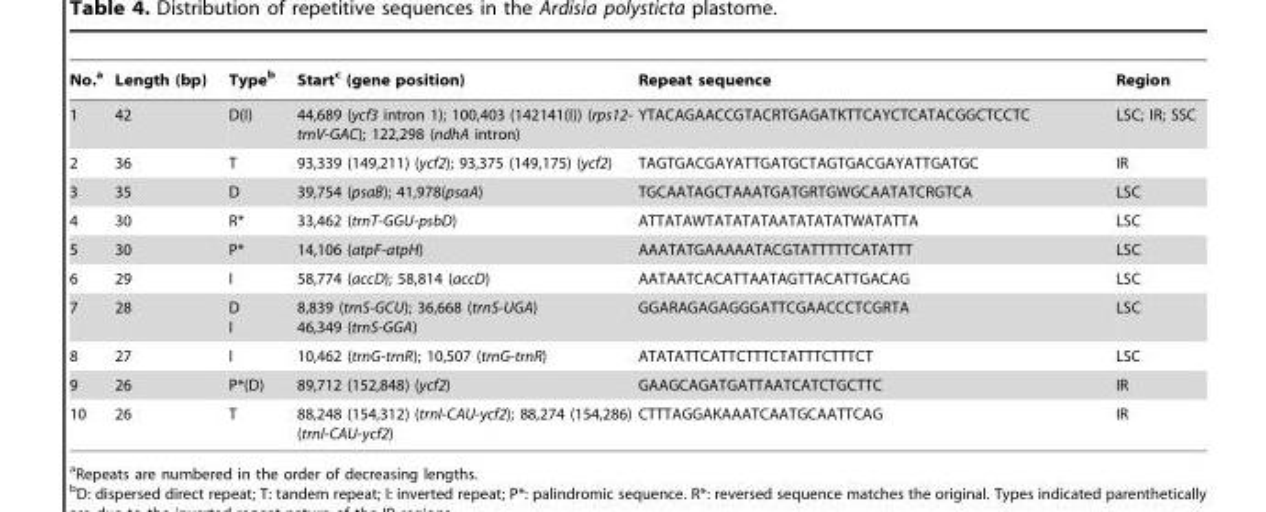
<table><thead><tr><td>No.<sup>a</sup></td><td>Length (bp)</td><td>Type<sup>b</sup></td><td>Start<sup>c</sup> (gene position)</td><td>Repeat sequence</td><td>Region</td></tr></thead><tbody><tr><td>1</td><td>42</td><td>D(I)</td><td>44,689 (ycf3 intron 1); 100,403 (142141(I)) (rps12- trnV-GAC); 122,298 (ndhA intron)</td><td>YTACAGAACCGTACRTGAGATKTTCAYCTCATACGGCTCCTC</td><td>LSC; IR; SSC</td></tr><tr><td>2</td><td>36</td><td>T</td><td>93,339 (149,211) (ycf2); 93,375 (149,175) (ycf2)</td><td>TAGTGACGAYATTGATGCTAGTGACGAYATTGATGC</td><td>IR</td></tr><tr><td>3</td><td>35</td><td>D</td><td>39,754 (psaB); 41,978(psaA)</td><td>TGCAATAGCTAAATGATGRTGWGCAATATCRGTCA</td><td>LSC</td></tr><tr><td>4</td><td>30</td><td>R*</td><td>33,462 (trnT-GGU-psbD)</td><td>ATTATAWTATATATAATATATATWATATTA</td><td>LSC</td></tr><tr><td>5</td><td>30</td><td>P*</td><td>14,106 (atpF-atpH)</td><td>AAATATGAAAAATACGTATTTTTCATATTT</td><td>LSC</td></tr><tr><td>6</td><td>29</td><td>I</td><td>58,774 (accD); 58,814 (accD)</td><td>AATAATCACATTAATAGTTACATTGACAG</td><td>LSC</td></tr><tr><td>7</td><td>28</td><td>D I</td><td>8,839 (trnS-GCU); 36,668 (trnS-UGA) 46,349 (trnS-GGA)</td><td>GGARAGAGAGGGATTCGAACCCTCGRTA</td><td>LSC</td></tr><tr><td>8</td><td>27</td><td>I</td><td>10,462 (trnG-trnR); 10,507 (trnG-trnR)</td><td>ATATATTCATTCTTTCTATTTCTTTCT</td><td>LSC</td></tr><tr><td>9</td><td>26</td><td>P*(D)</td><td>89,712 (152,848) (ycf2)</td><td>GAAGCAGATGATTAATCATCTGCTTC</td><td>IR</td></tr><tr><td>10</td><td>26</td><td>T</td><td>88,248 (154,312) (trnI-CAU-ycf2); 88,274 (154,286) (trnI-CAU-ycf2)</td><td>CTTTAGGAKAAATCAATGCAATTCAG</td><td>IR</td></tr></tbody></table>